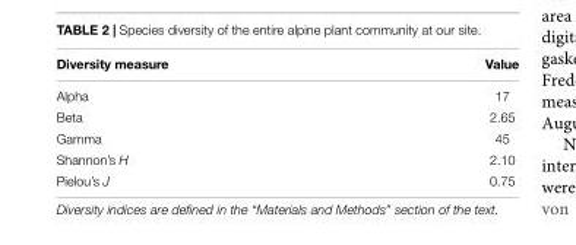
<table><thead><tr><td>Diversity measure</td><td>Value</td></tr></thead><tbody><tr><td>Alpha</td><td>17</td></tr><tr><td>Beta</td><td>2.65</td></tr><tr><td>Gamma</td><td>45</td></tr><tr><td>Shannon’s H</td><td>2.10</td></tr><tr><td>Pielou’s J</td><td>0.75</td></tr></tbody></table>